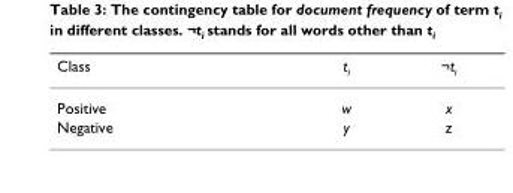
<table><thead><tr><td>Class</td><td>ti</td><td>¬ti</td></tr></thead><tbody><tr><td>Positive</td><td>w</td><td>x</td></tr><tr><td>Negative</td><td>y</td><td>z</td></tr></tbody></table>